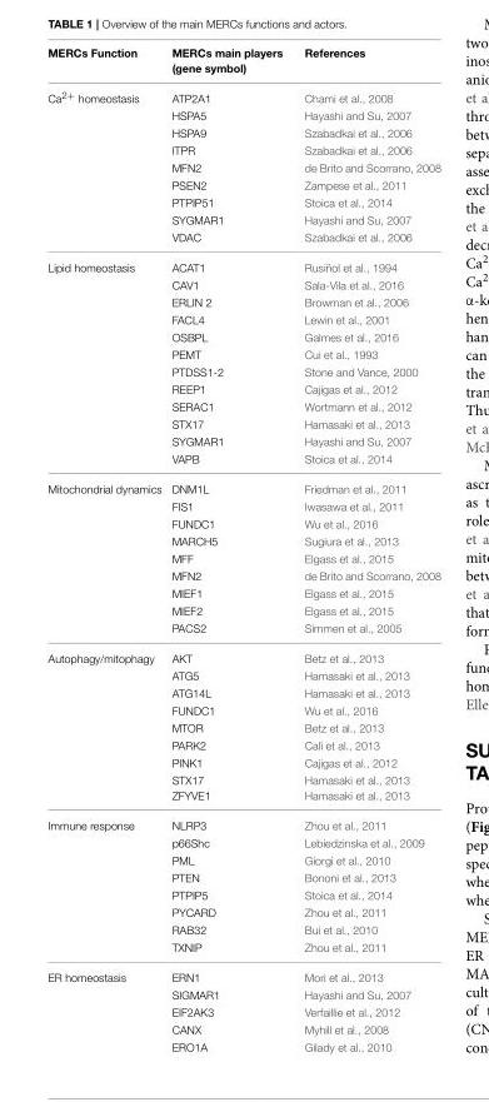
<table><thead><tr><td>MERCs Function</td><td>MERCs main players (gene symbol)</td><td>References</td></tr></thead><tbody><tr><td rowspan="9">Ca<sup>2+</sup> homeostasis</td><td>ATP2A1</td><td>Chami et al., 2008</td></tr><tr><td>HSPA5</td><td>Hayashi and Su, 2007</td></tr><tr><td>HSPA9</td><td>Szabadkai et al., 2006</td></tr><tr><td>ITPR</td><td>Szabadkai et al., 2006</td></tr><tr><td>MFN2</td><td>de Brito and Scorrano, 2008</td></tr><tr><td>PSEN2</td><td>Zampese et al., 2011</td></tr><tr><td>PTPIP51</td><td>Stoica et al., 2014</td></tr><tr><td>SYGMAR1</td><td>Hayashi and Su, 2007</td></tr><tr><td>VDAC</td><td>Szabadkai et al., 2006</td></tr><tr><td rowspan="12">Lipid homeostasis</td><td>ACAT1</td><td>Rusiñol et al., 1994</td></tr><tr><td>CAV1</td><td>Sala-Vila et al., 2016</td></tr><tr><td>ERLIN 2</td><td>Browman et al., 2006</td></tr><tr><td>FACL4</td><td>Lewin et al., 2001</td></tr><tr><td>OSBPL</td><td>Galmes et al., 2016</td></tr><tr><td>PEMT</td><td>Cui et al., 1993</td></tr><tr><td>PTDSS1-2</td><td>Stone and Vance, 2000</td></tr><tr><td>REEP1</td><td>Cajigas et al., 2012</td></tr><tr><td>SERAC1</td><td>Wortmann et al., 2012</td></tr><tr><td>STX17</td><td>Hamasaki et al., 2013</td></tr><tr><td>SYGMAR1</td><td>Hayashi and Su, 2007</td></tr><tr><td>VAPB</td><td>Stoica et al., 2014</td></tr><tr><td rowspan="9">Mitochondrial dynamics</td><td>DNM1L</td><td>Friedman et al., 2011</td></tr><tr><td>FIS1</td><td>Iwasawa et al., 2011</td></tr><tr><td>FUNDC1</td><td>Wu et al., 2016</td></tr><tr><td>MARCH5</td><td>Sugiura et al., 2013</td></tr><tr><td>MFF</td><td>Elgass et al., 2015</td></tr><tr><td>MFN2</td><td>de Brito and Scorrano, 2008</td></tr><tr><td>MIEF1</td><td>Elgass et al., 2015</td></tr><tr><td>MIEF2</td><td>Elgass et al., 2015</td></tr><tr><td>PACS2</td><td>Simmen et al., 2005</td></tr><tr><td rowspan="8">Autophagy/mitophagy</td><td>AKT</td><td>Betz et al., 2013</td></tr><tr><td>ATG5</td><td>Hamasaki et al., 2013</td></tr><tr><td>ATG14L</td><td>Hamasaki et al., 2013</td></tr><tr><td>FUNDC1</td><td>Wu et al., 2016</td></tr><tr><td>MTOR</td><td>Betz et al., 2013</td></tr><tr><td>PARK2</td><td>Calì et al., 2013</td></tr><tr><td>PINK1</td><td>Cajigas et al., 2012</td></tr><tr><td>STX17 ZFYVE1</td><td>Hamasaki et al., 2013 Hamasaki et al., 2013</td></tr><tr><td rowspan="8">Immune response</td><td>NLRP3</td><td>Zhou et al., 2011</td></tr><tr><td>p66Shc</td><td>Lebiedzinska et al., 2009</td></tr><tr><td>PML</td><td>Giorgi et al., 2010</td></tr><tr><td>PTEN</td><td>Bononi et al., 2013</td></tr><tr><td>PTPIP5</td><td>Stoica et al., 2014</td></tr><tr><td>PYCARD</td><td>Zhou et al., 2011</td></tr><tr><td>RAB32</td><td>Bui et al., 2010</td></tr><tr><td>TXNIP</td><td>Zhou et al., 2011</td></tr><tr><td rowspan="5">ER homeostasis</td><td>ERN1</td><td>Mori et al., 2013</td></tr><tr><td>SIGMAR1</td><td>Hayashi and Su, 2007</td></tr><tr><td>EIF2AK3</td><td>Verfaillie et al., 2012</td></tr><tr><td>CANX</td><td>Myhill et al., 2008</td></tr><tr><td>ERO1A</td><td>Gilady et al., 2010</td></tr></tbody></table>